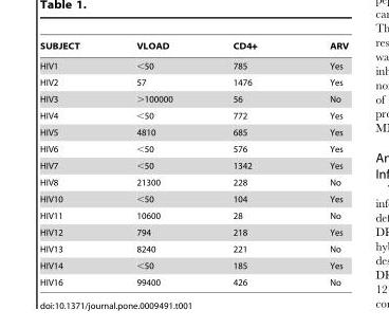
<table><thead><tr><td>SUBJECT</td><td>VLOAD</td><td>CD4+</td><td>ARV</td></tr></thead><tbody><tr><td>HIV1</td><td>&lt;50</td><td>785</td><td>Yes</td></tr><tr><td>HIV2</td><td>57</td><td>1476</td><td>Yes</td></tr><tr><td>HIV3</td><td>&gt;100000</td><td>56</td><td>No</td></tr><tr><td>HIV4</td><td>&lt;50</td><td>772</td><td>Yes</td></tr><tr><td>HIV5</td><td>4810</td><td>685</td><td>Yes</td></tr><tr><td>HIV6</td><td>&lt;50</td><td>576</td><td>Yes</td></tr><tr><td>HIV7</td><td>&lt;50</td><td>1342</td><td>Yes</td></tr><tr><td>HIV8</td><td>21300</td><td>228</td><td>No</td></tr><tr><td>HIV10</td><td>&lt;50</td><td>104</td><td>Yes</td></tr><tr><td>HIV11</td><td>10600</td><td>28</td><td>No</td></tr><tr><td>HIV12</td><td>794</td><td>218</td><td>Yes</td></tr><tr><td>HIV13</td><td>8240</td><td>221</td><td>No</td></tr><tr><td>HIV14</td><td>&lt;50</td><td>185</td><td>Yes</td></tr><tr><td>HIV16</td><td>99400</td><td>426</td><td>No</td></tr></tbody></table>